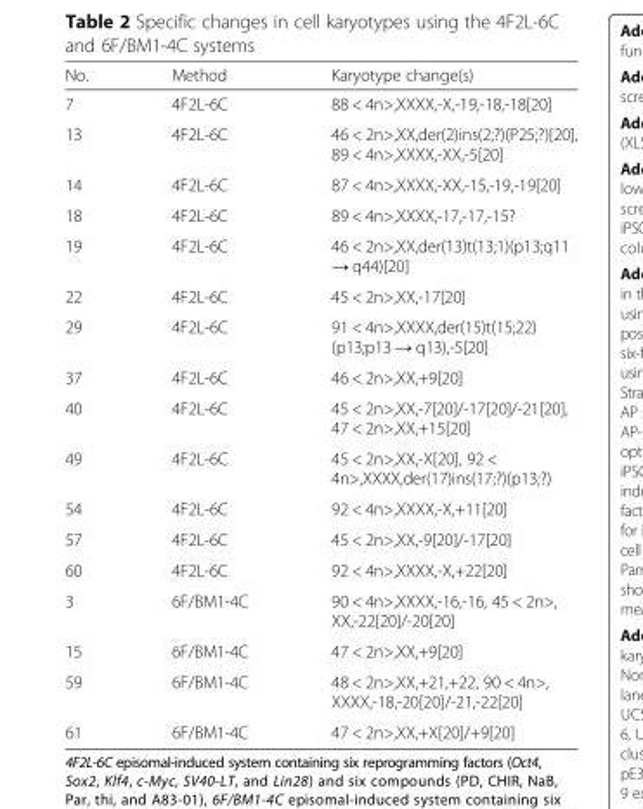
<table><thead><tr><td>No.</td><td>Method</td><td>Karyotype change(s)</td></tr></thead><tbody><tr><td>7</td><td>4F2L-6C</td><td>88 &lt; 4n&gt;,XXXX,-X,-19,-18,-18[20]</td></tr><tr><td>13</td><td>4F2L-6C</td><td>46 &lt; 2n&gt;,XX,der(2)ins(2;?)(P25;?)[20], 89 &lt; 4n&gt;,XXXX,-XX,-5[20]</td></tr><tr><td>14</td><td>4F2L-6C</td><td>87 &lt; 4n&gt;,XXXX,-XX,-15,-19,-19[20]</td></tr><tr><td>18</td><td>4F2L-6C</td><td>89 &lt; 4n&gt;,XXXX,-17,-17,-15?</td></tr><tr><td>19</td><td>4F2L-6C</td><td>46 &lt; 2n&gt;,XX,der(13)t(13;1)(p13;q11 → q44)[20]</td></tr><tr><td>22</td><td>4F2L-6C</td><td>45 &lt; 2n&gt;,XX,-17[20]</td></tr><tr><td>29</td><td>4F2L-6C</td><td>91 &lt; 4n&gt;,XXXX,der(15)t(15;22) (p13;p13 → q13),-5[20]</td></tr><tr><td>37</td><td>4F2L-6C</td><td>46 &lt; 2n&gt;,XX,+9[20]</td></tr><tr><td>40</td><td>4F2L-6C</td><td>45 &lt; 2n&gt;,XX,-7[20]/-17[20]/-21[20], 47 &lt; 2n&gt;,XX,+15[20]</td></tr><tr><td>49</td><td>4F2L-6C</td><td>45 &lt; 2n&gt;,XX,-X[20], 92 &lt; 4n&gt;,XXXX,der(17)ins(17;?)(p13;?)</td></tr><tr><td>54</td><td>4F2L-6C</td><td>92 &lt; 4n&gt;,XXXX,-X,+11[20]</td></tr><tr><td>57</td><td>4F2L-6C</td><td>45 &lt; 2n&gt;,XX,-9[20]/-17[20]</td></tr><tr><td>60</td><td>4F2L-6C</td><td>92 &lt; 4n&gt;,XXXX,-X,+22[20]</td></tr><tr><td>3</td><td>6F/BM1-4C</td><td>90 &lt; 4n&gt;,XXXX,-16,-16, 45 &lt; 2n&gt;, XX,-22[20]/-20[20]</td></tr><tr><td>15</td><td>6F/BM1-4C</td><td>47 &lt; 2n&gt;,XX,+9[20]</td></tr><tr><td>59</td><td>6F/BM1-4C</td><td>48 &lt; 2n&gt;,XX,+21,+22, 90 &lt; 4n&gt;, XXXX,-18,-20[20]/-21,-22[20]</td></tr><tr><td>61</td><td>6F/BM1-4C</td><td>47 &lt; 2n&gt;,XX,+X[20]/+9[20]</td></tr></tbody></table>